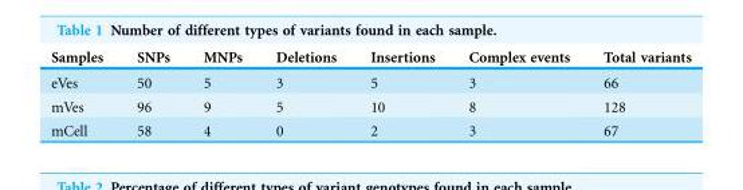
<table><thead><tr><td>Samples</td><td>SNPs</td><td>MNPs</td><td>Deletions</td><td>Insertions</td><td>Complex events</td><td>Total variants</td></tr></thead><tbody><tr><td>eVes</td><td>50</td><td>5</td><td>3</td><td>5</td><td>3</td><td>66</td></tr><tr><td>mVes</td><td>96</td><td>9</td><td>5</td><td>10</td><td>8</td><td>128</td></tr><tr><td>mCell</td><td>58</td><td>4</td><td>0</td><td>2</td><td>3</td><td>67</td></tr></tbody></table>